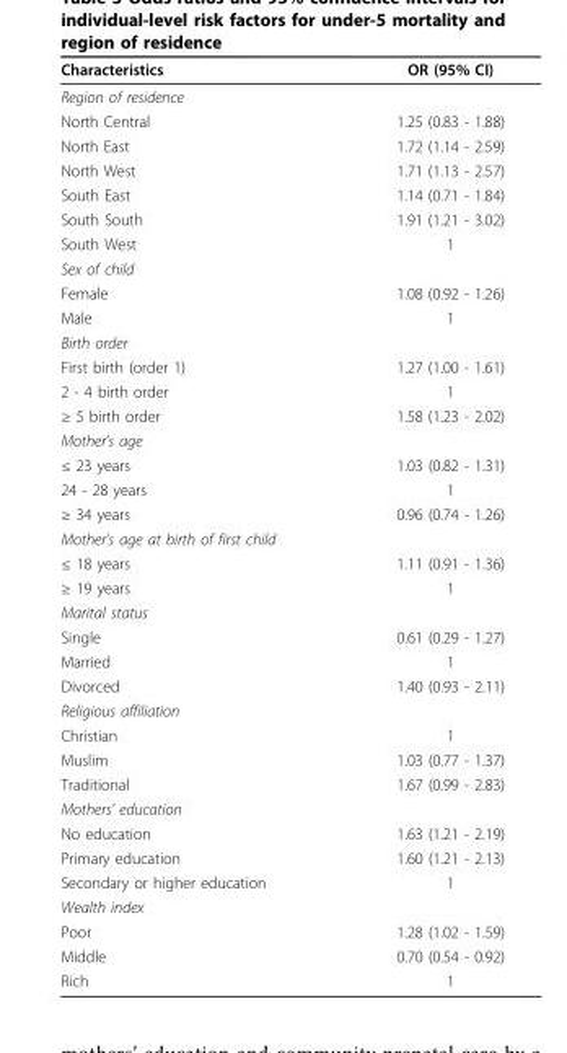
<table><thead><tr><td>Characteristics</td><td>OR (95% CI)</td></tr></thead><tbody><tr><td colspan="2">Region of residence</td></tr><tr><td>North Central</td><td>1.25 (0.83 - 1.88)</td></tr><tr><td>North East</td><td>1.72 (1.14 - 2.59)</td></tr><tr><td>North West</td><td>1.71 (1.13 - 2.57)</td></tr><tr><td>South East</td><td>1.14 (0.71 - 1.84)</td></tr><tr><td>South South</td><td>1.91 (1.21 - 3.02)</td></tr><tr><td>South West</td><td>1</td></tr><tr><td colspan="2">Sex of child</td></tr><tr><td>Female</td><td>1.08 (0.92 - 1.26)</td></tr><tr><td>Male</td><td>1</td></tr><tr><td colspan="2">Birth order</td></tr><tr><td>First birth (order 1)</td><td>1.27 (1.00 - 1.61)</td></tr><tr><td>2 - 4 birth order</td><td>1</td></tr><tr><td>≥ 5 birth order</td><td>1.58 (1.23 - 2.02)</td></tr><tr><td colspan="2">Mother’s age</td></tr><tr><td>≤ 23 years</td><td>1.03 (0.82 - 1.31)</td></tr><tr><td>24 - 28 years</td><td>1</td></tr><tr><td>≥ 34 years</td><td>0.96 (0.74 - 1.26)</td></tr><tr><td colspan="2">Mother’s age at birth of first child</td></tr><tr><td>≤ 18 years</td><td>1.11 (0.91 - 1.36)</td></tr><tr><td>≥ 19 years</td><td>1</td></tr><tr><td colspan="2">Marital status</td></tr><tr><td>Single</td><td>0.61 (0.29 - 1.27)</td></tr><tr><td>Married</td><td>1</td></tr><tr><td>Divorced</td><td>1.40 (0.93 - 2.11)</td></tr><tr><td colspan="2">Religious affiliation</td></tr><tr><td>Christian</td><td>1</td></tr><tr><td>Muslim</td><td>1.03 (0.77 - 1.37)</td></tr><tr><td>Traditional</td><td>1.67 (0.99 - 2.83)</td></tr><tr><td colspan="2">Mothers’ education</td></tr><tr><td>No education</td><td>1.63 (1.21 - 2.19)</td></tr><tr><td>Primary education</td><td>1.60 (1.21 - 2.13)</td></tr><tr><td>Secondary or higher education</td><td>1</td></tr><tr><td colspan="2">Wealth index</td></tr><tr><td>Poor</td><td>1.28 (1.02 - 1.59)</td></tr><tr><td>Middle</td><td>0.70 (0.54 - 0.92)</td></tr><tr><td>Rich</td><td>1</td></tr></tbody></table>